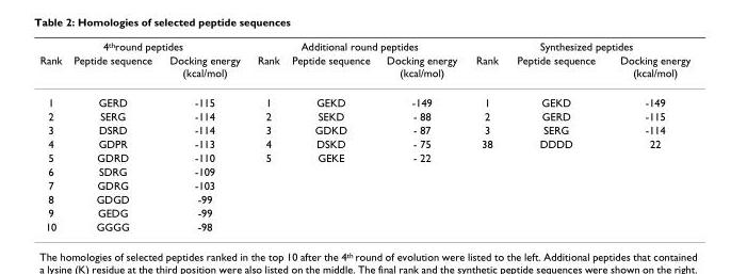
<table><thead><tr><td colspan="3">4<sup>th</sup>round peptides</td><td colspan="3">Additional round peptides</td><td colspan="3">Synthesized peptides</td></tr><tr><td>Rank</td><td>Peptide sequence</td><td>Docking energy (kcal/mol)</td><td>Rank</td><td>Peptide sequence</td><td>Docking energy (kcal/mol)</td><td>Rank</td><td>Peptide sequence</td><td>Docking energy (kcal/mol)</td></tr></thead><tbody><tr><td>1</td><td>GERD</td><td>-115</td><td>1</td><td>GEKD</td><td>-149</td><td>1</td><td>GEKD</td><td>-149</td></tr><tr><td>2</td><td>SERG</td><td>-114</td><td>2</td><td>SEKD</td><td>- 88</td><td>2</td><td>GERD</td><td>-115</td></tr><tr><td>3</td><td>DSRD</td><td>-114</td><td>3</td><td>GDKD</td><td>- 87</td><td>3</td><td>SERG</td><td>-114</td></tr><tr><td>4</td><td>GDPR</td><td>-113</td><td>4</td><td>DSKD</td><td>- 75</td><td>38</td><td>DDDD</td><td>22</td></tr><tr><td>5</td><td>GDRD</td><td>-110</td><td>5</td><td>GEKE</td><td>- 22</td><td></td><td></td><td></td></tr><tr><td>6</td><td>SDRG</td><td>-109</td><td></td><td></td><td></td><td></td><td></td><td></td></tr><tr><td>7</td><td>GDRG</td><td>-103</td><td></td><td></td><td></td><td></td><td></td><td></td></tr><tr><td>8</td><td>GDGD</td><td>-99</td><td></td><td></td><td></td><td></td><td></td><td></td></tr><tr><td>9</td><td>GEDG</td><td>-99</td><td></td><td></td><td></td><td></td><td></td><td></td></tr><tr><td>10</td><td>GGGG</td><td>-98</td><td></td><td></td><td></td><td></td><td></td><td></td></tr></tbody></table>